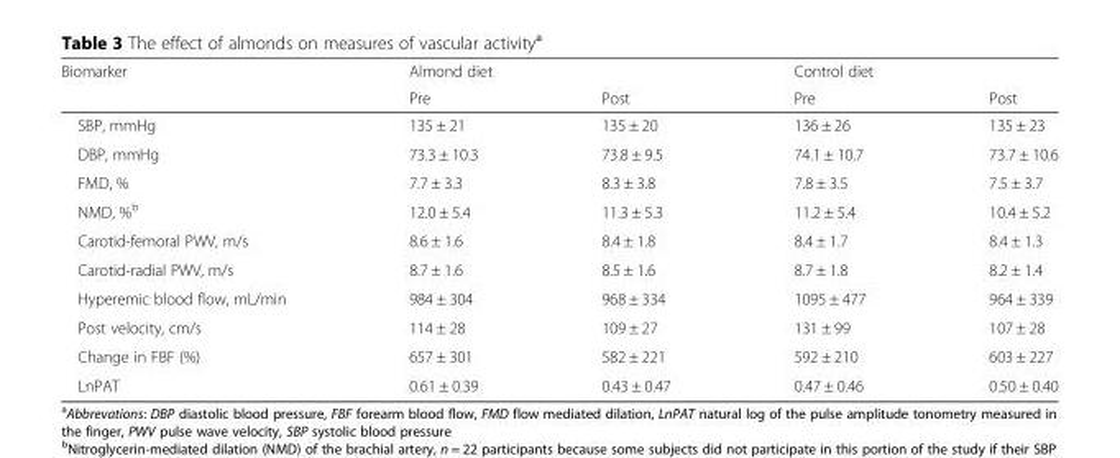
<table><thead><tr><td rowspan="2">Biomarker</td><td colspan="2">Almond diet</td><td colspan="2">Control diet</td></tr><tr><td>Pre</td><td>Post</td><td>Pre</td><td>Post</td></tr></thead><tbody><tr><td>SBP, mmHg</td><td>135 ± 21</td><td>135 ± 20</td><td>136 ± 26</td><td>135 ± 23</td></tr><tr><td>DBP, mmHg</td><td>73.3 ± 10.3</td><td>73.8 ± 9.5</td><td>74.1 ± 10.7</td><td>73.7 ± 10.6</td></tr><tr><td>FMD, %</td><td>7.7 ± 3.3</td><td>8.3 ± 3.8</td><td>7.8 ± 3.5</td><td>7.5 ± 3.7</td></tr><tr><td>NMD, %<sup>b</sup></td><td>12.0 ± 5.4</td><td>11.3 ± 5.3</td><td>11.2 ± 5.4</td><td>10.4 ± 5.2</td></tr><tr><td>Carotid-femoral PWV, m/s</td><td>8.6 ± 1.6</td><td>8.4 ± 1.8</td><td>8.4 ± 1.7</td><td>8.4 ± 1.3</td></tr><tr><td>Carotid-radial PWV, m/s</td><td>8.7 ± 1.6</td><td>8.5 ± 1.6</td><td>8.7 ± 1.8</td><td>8.2 ± 1.4</td></tr><tr><td>Hyperemic blood flow, mL/min</td><td>984 ± 304</td><td>968 ± 334</td><td>1095 ± 477</td><td>964 ± 339</td></tr><tr><td>Post velocity, cm/s</td><td>114 ± 28</td><td>109 ± 27</td><td>131 ± 99</td><td>107 ± 28</td></tr><tr><td>Change in FBF (%)</td><td>657 ± 301</td><td>582 ± 221</td><td>592 ± 210</td><td>603 ± 227</td></tr><tr><td>LnPAT</td><td>0.61 ± 0.39</td><td>0.43 ± 0.47</td><td>0.47 ± 0.46</td><td>0.50 ± 0.40</td></tr></tbody></table>